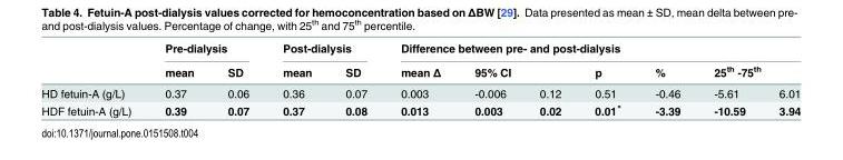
<table><thead><tr><td rowspan="3">HD fetuin-A (g/L)</td><td colspan="2">Pre-dialysis</td><td colspan="2">Post-dialysis</td><td colspan="7">Difference between pre- and post-dialysis</td></tr><tr><td rowspan="2">mean 0.37</td><td rowspan="2">SD 0.06</td><td rowspan="2">mean 0.36</td><td rowspan="2">SD 0.07</td><td rowspan="2">mean Δ 0.003</td><td colspan="2">95% CI</td><td rowspan="2">p 0.51</td><td rowspan="2">% -0.46</td><td colspan="2">25<sup>th</sup> -75<sup>th</sup></td></tr><tr><td>-0.006</td><td>0.12</td><td>-5.61</td><td>6.01</td></tr></thead><tbody><tr><td>HDF fetuin-A (g/L)</td><td>0.39</td><td>0.07</td><td>0.37</td><td>0.08</td><td>0.013</td><td>0.003</td><td>0.02</td><td>0.01*</td><td>-3.39</td><td>-10.59</td><td>3.94</td></tr></tbody></table>